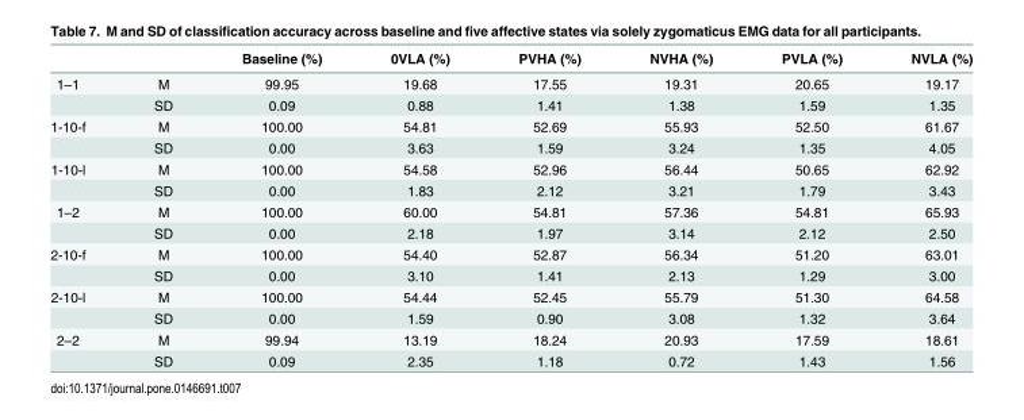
<table><thead><tr><td></td><td></td><td>Baseline (%)</td><td>0VLA (%)</td><td>PVHA (%)</td><td>NVHA (%)</td><td>PVLA (%)</td><td>NVLA (%)</td></tr></thead><tbody><tr><td rowspan="2">1–1</td><td>M</td><td>99.95</td><td>19.68</td><td>17.55</td><td>19.31</td><td>20.65</td><td>19.17</td></tr><tr><td>SD</td><td>0.09</td><td>0.88</td><td>1.41</td><td>1.38</td><td>1.59</td><td>1.35</td></tr><tr><td rowspan="2">1-10-f</td><td>M</td><td>100.00</td><td>54.81</td><td>52.69</td><td>55.93</td><td>52.50</td><td>61.67</td></tr><tr><td>SD</td><td>0.00</td><td>3.63</td><td>1.59</td><td>3.24</td><td>1.35</td><td>4.05</td></tr><tr><td rowspan="2">1-10-l</td><td>M</td><td>100.00</td><td>54.58</td><td>52.96</td><td>56.44</td><td>50.65</td><td>62.92</td></tr><tr><td>SD</td><td>0.00</td><td>1.83</td><td>2.12</td><td>3.21</td><td>1.79</td><td>3.43</td></tr><tr><td rowspan="2">1–2</td><td>M</td><td>100.00</td><td>60.00</td><td>54.81</td><td>57.36</td><td>54.81</td><td>65.93</td></tr><tr><td>SD</td><td>0.00</td><td>2.18</td><td>1.97</td><td>3.14</td><td>2.12</td><td>2.50</td></tr><tr><td rowspan="2">2-10-f</td><td>M</td><td>100.00</td><td>54.40</td><td>52.87</td><td>56.34</td><td>51.20</td><td>63.01</td></tr><tr><td>SD</td><td>0.00</td><td>3.10</td><td>1.41</td><td>2.13</td><td>1.29</td><td>3.00</td></tr><tr><td rowspan="2">2-10-l</td><td>M</td><td>100.00</td><td>54.44</td><td>52.45</td><td>55.79</td><td>51.30</td><td>64.58</td></tr><tr><td>SD</td><td>0.00</td><td>1.59</td><td>0.90</td><td>3.08</td><td>1.32</td><td>3.64</td></tr><tr><td rowspan="2">2–2</td><td>M</td><td>99.94</td><td>13.19</td><td>18.24</td><td>20.93</td><td>17.59</td><td>18.61</td></tr><tr><td>SD</td><td>0.09</td><td>2.35</td><td>1.18</td><td>0.72</td><td>1.43</td><td>1.56</td></tr></tbody></table>